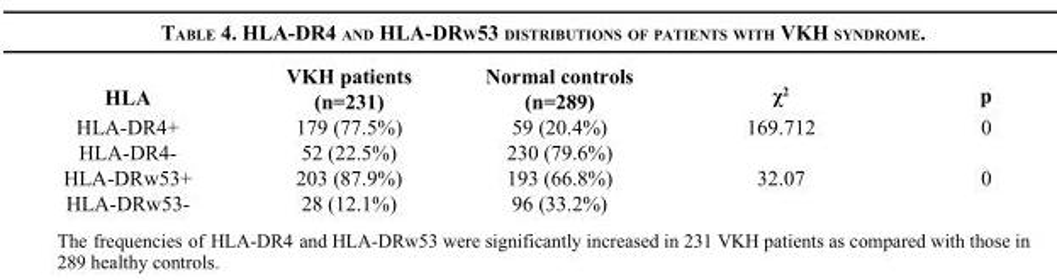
<table><thead><tr><td>HLA</td><td>VKH patients (n=231)</td><td>Normal controls (n=289)</td><td>χ<sup>2</sup></td><td>p</td></tr></thead><tbody><tr><td>HLA-DR4+</td><td>179 (77.5%)</td><td>59 (20.4%)</td><td>169.712</td><td>0</td></tr><tr><td>HLA-DR4-</td><td>52 (22.5%)</td><td>230 (79.6%)</td><td></td><td></td></tr><tr><td>HLA-DRw53+</td><td>203 (87.9%)</td><td>193 (66.8%)</td><td>32.07</td><td>0</td></tr><tr><td>HLA-DRw53-</td><td>28 (12.1%)</td><td>96 (33.2%)</td><td></td><td></td></tr></tbody></table>